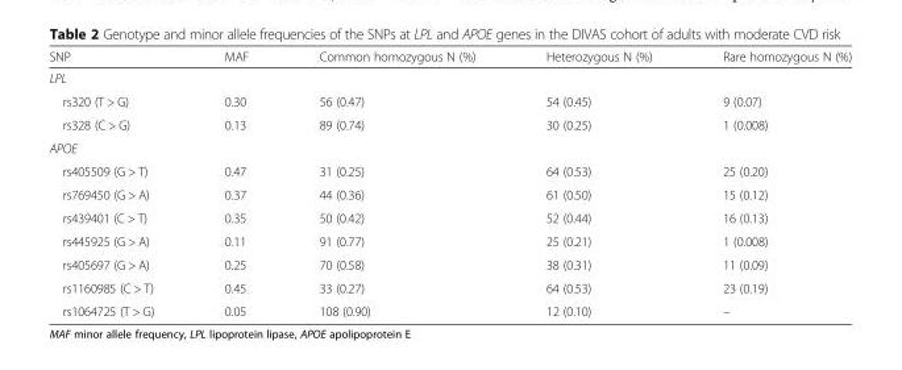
<table><thead><tr><td>SNP</td><td>MAF</td><td>Common homozygous N (%)</td><td>Heterozygous N (%)</td><td>Rare homozygous N (%)</td></tr></thead><tbody><tr><td colspan="5">LPL</td></tr><tr><td>rs320 (T &gt; G)</td><td>0.30</td><td>56 (0.47)</td><td>54 (0.45)</td><td>9 (0.07)</td></tr><tr><td>rs328 (C &gt; G)</td><td>0.13</td><td>89 (0.74)</td><td>30 (0.25)</td><td>1 (0.008)</td></tr><tr><td colspan="5">APOE</td></tr><tr><td>rs405509 (G &gt; T)</td><td>0.47</td><td>31 (0.25)</td><td>64 (0.53)</td><td>25 (0.20)</td></tr><tr><td>rs769450 (G &gt; A)</td><td>0.37</td><td>44 (0.36)</td><td>61 (0.50)</td><td>15 (0.12)</td></tr><tr><td>rs439401 (C &gt; T)</td><td>0.35</td><td>50 (0.42)</td><td>52 (0.44)</td><td>16 (0.13)</td></tr><tr><td>rs445925 (G &gt; A)</td><td>0.11</td><td>91 (0.77)</td><td>25 (0.21)</td><td>1 (0.008)</td></tr><tr><td>rs405697 (G &gt; A)</td><td>0.25</td><td>70 (0.58)</td><td>38 (0.31)</td><td>11 (0.09)</td></tr><tr><td>rs1160985 (C &gt; T)</td><td>0.45</td><td>33 (0.27)</td><td>64 (0.53)</td><td>23 (0.19)</td></tr><tr><td>rs1064725 (T &gt; G)</td><td>0.05</td><td>108 (0.90)</td><td>12 (0.10)</td><td>–</td></tr></tbody></table>